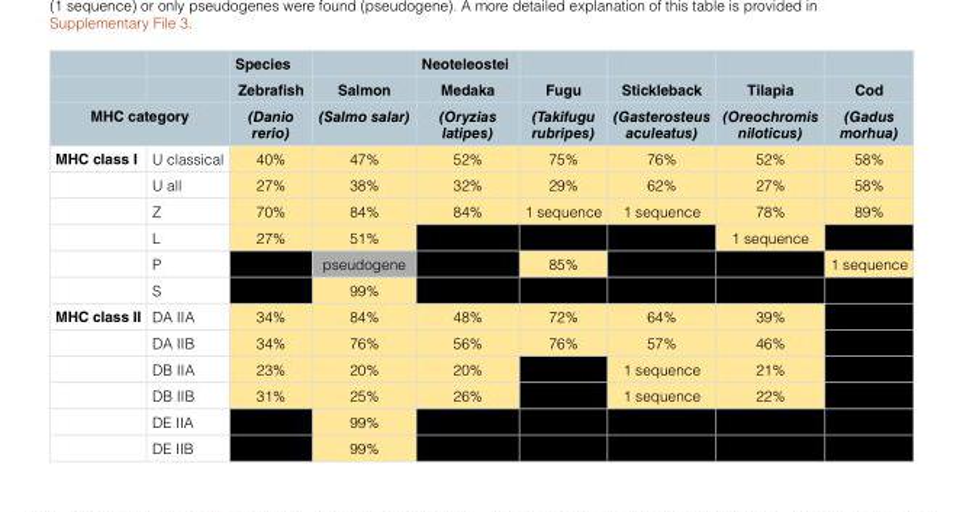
<table><thead><tr><td rowspan="2"></td><td rowspan="2"></td><td rowspan="3">Species Zebrafish (Danio rerio)</td><td rowspan="3">Salmon (Salmo salar)</td><td rowspan="3">Neoteleostei Medaka (Oryzias latipes)</td><td rowspan="3">Fugu (Takifugu rubripes)</td><td rowspan="3">Stickleback (Gasterosteus aculeatus)</td><td rowspan="3">Tilapia (Oreochromis niloticus)</td><td rowspan="3">Cod (Gadus morhua)</td></tr><tr></tr><tr><td colspan="2">MHC category</td></tr></thead><tbody><tr><td rowspan="6">MHC class I</td><td>U classical</td><td>40%</td><td>47%</td><td>52%</td><td>75%</td><td>76%</td><td>52%</td><td>58%</td></tr><tr><td>U all</td><td>27%</td><td>38%</td><td>32%</td><td>29%</td><td>62%</td><td>27%</td><td>58%</td></tr><tr><td>Z</td><td>70%</td><td>84%</td><td>84%</td><td>1 sequence</td><td>1 sequence</td><td>78%</td><td>89%</td></tr><tr><td>L</td><td>27%</td><td>51%</td><td></td><td></td><td></td><td>1 sequence</td><td></td></tr><tr><td>P</td><td></td><td>pseudogene</td><td></td><td>85%</td><td></td><td></td><td>1 sequence</td></tr><tr><td>S</td><td></td><td>99%</td><td></td><td></td><td></td><td></td><td></td></tr><tr><td rowspan="6">MHC class II</td><td>DA IIA</td><td>34%</td><td>84%</td><td>48%</td><td>72%</td><td>64%</td><td>39%</td><td></td></tr><tr><td>DA IIB</td><td>34%</td><td>76%</td><td>56%</td><td>76%</td><td>57%</td><td>46%</td><td></td></tr><tr><td>DB IIA</td><td>23%</td><td>20%</td><td>20%</td><td></td><td>1 sequence</td><td>21%</td><td></td></tr><tr><td>DB IIB</td><td>31%</td><td>25%</td><td>26%</td><td></td><td>1 sequence</td><td>22%</td><td></td></tr><tr><td>DE IIA</td><td></td><td>99%</td><td></td><td></td><td></td><td></td><td></td></tr><tr><td>DE IIB</td><td></td><td>99%</td><td></td><td></td><td></td><td></td><td></td></tr></tbody></table>